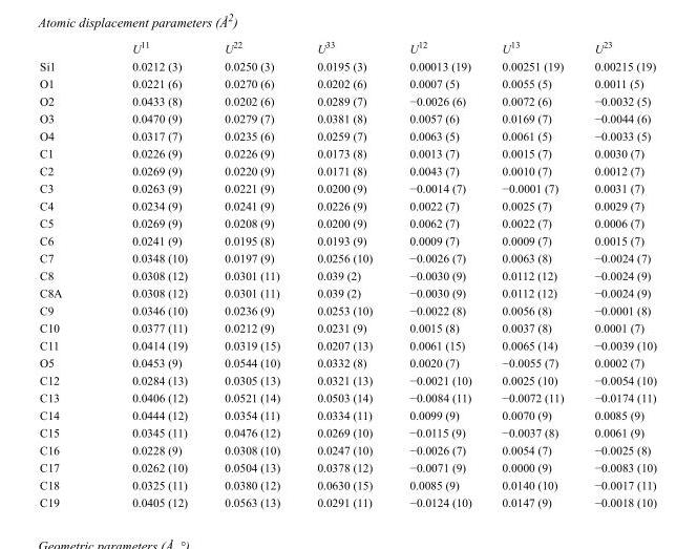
<table><thead><tr><td></td><td>U<sup>11</sup></td><td>U<sup>22</sup></td><td>U<sup>33</sup></td><td>U<sup>12</sup></td><td>U<sup>13</sup></td><td>U<sup>23</sup></td></tr></thead><tbody><tr><td>Si1</td><td>0.0212 (3)</td><td>0.0250 (3)</td><td>0.0195 (3)</td><td>0.00013 (19)</td><td>0.00251 (19)</td><td>0.00215 (19)</td></tr><tr><td>O1</td><td>0.0221 (6)</td><td>0.0270 (6)</td><td>0.0202 (6)</td><td>0.0007 (5)</td><td>0.0055 (5)</td><td>0.0011 (5)</td></tr><tr><td>O2</td><td>0.0433 (8)</td><td>0.0202 (6)</td><td>0.0289 (7)</td><td>−0.0026 (6)</td><td>0.0072 (6)</td><td>−0.0032 (5)</td></tr><tr><td>O3</td><td>0.0470 (9)</td><td>0.0279 (7)</td><td>0.0381 (8)</td><td>0.0057 (6)</td><td>0.0169 (7)</td><td>−0.0044 (6)</td></tr><tr><td>O4</td><td>0.0317 (7)</td><td>0.0235 (6)</td><td>0.0259 (7)</td><td>0.0063 (5)</td><td>0.0061 (5)</td><td>−0.0033 (5)</td></tr><tr><td>C1</td><td>0.0226 (9)</td><td>0.0226 (9)</td><td>0.0173 (8)</td><td>0.0013 (7)</td><td>0.0015 (7)</td><td>0.0030 (7)</td></tr><tr><td>C2</td><td>0.0269 (9)</td><td>0.0220 (9)</td><td>0.0171 (8)</td><td>0.0043 (7)</td><td>0.0010 (7)</td><td>0.0012 (7)</td></tr><tr><td>C3</td><td>0.0263 (9)</td><td>0.0221 (9)</td><td>0.0200 (9)</td><td>−0.0014 (7)</td><td>−0.0001 (7)</td><td>0.0031 (7)</td></tr><tr><td>C4</td><td>0.0234 (9)</td><td>0.0241 (9)</td><td>0.0226 (9)</td><td>0.0022 (7)</td><td>0.0025 (7)</td><td>0.0029 (7)</td></tr><tr><td>C5</td><td>0.0269 (9)</td><td>0.0208 (9)</td><td>0.0200 (9)</td><td>0.0062 (7)</td><td>0.0022 (7)</td><td>0.0006 (7)</td></tr><tr><td>C6</td><td>0.0241 (9)</td><td>0.0195 (8)</td><td>0.0193 (9)</td><td>0.0009 (7)</td><td>0.0009 (7)</td><td>0.0015 (7)</td></tr><tr><td>C7</td><td>0.0348 (10)</td><td>0.0197 (9)</td><td>0.0256 (10)</td><td>−0.0026 (7)</td><td>0.0063 (8)</td><td>−0.0024 (7)</td></tr><tr><td>C8</td><td>0.0308 (12)</td><td>0.0301 (11)</td><td>0.039 (2)</td><td>−0.0030 (9)</td><td>0.0112 (12)</td><td>−0.0024 (9)</td></tr><tr><td>C8A</td><td>0.0308 (12)</td><td>0.0301 (11)</td><td>0.039 (2)</td><td>−0.0030 (9)</td><td>0.0112 (12)</td><td>−0.0024 (9)</td></tr><tr><td>C9</td><td>0.0346 (10)</td><td>0.0236 (9)</td><td>0.0253 (10)</td><td>−0.0022 (8)</td><td>0.0056 (8)</td><td>−0.0001 (8)</td></tr><tr><td>C10</td><td>0.0377 (11)</td><td>0.0212 (9)</td><td>0.0231 (9)</td><td>0.0015 (8)</td><td>0.0037 (8)</td><td>0.0001 (7)</td></tr><tr><td>C11</td><td>0.0414 (19)</td><td>0.0319 (15)</td><td>0.0207 (13)</td><td>0.0061 (15)</td><td>0.0065 (14)</td><td>−0.0039 (10)</td></tr><tr><td>O5</td><td>0.0453 (9)</td><td>0.0544 (10)</td><td>0.0332 (8)</td><td>0.0020 (7)</td><td>−0.0055 (7)</td><td>0.0002 (7)</td></tr><tr><td>C12</td><td>0.0284 (13)</td><td>0.0305 (13)</td><td>0.0321 (13)</td><td>−0.0021 (10)</td><td>0.0025 (10)</td><td>−0.0054 (10)</td></tr><tr><td>C13</td><td>0.0406 (12)</td><td>0.0521 (14)</td><td>0.0503 (14)</td><td>−0.0084 (11)</td><td>−0.0072 (11)</td><td>−0.0174 (11)</td></tr><tr><td>C14</td><td>0.0444 (12)</td><td>0.0354 (11)</td><td>0.0334 (11)</td><td>0.0099 (9)</td><td>0.0070 (9)</td><td>0.0085 (9)</td></tr><tr><td>C15</td><td>0.0345 (11)</td><td>0.0476 (12)</td><td>0.0269 (10)</td><td>−0.0115 (9)</td><td>−0.0037 (8)</td><td>0.0061 (9)</td></tr><tr><td>C16</td><td>0.0228 (9)</td><td>0.0308 (10)</td><td>0.0247 (10)</td><td>−0.0026 (7)</td><td>0.0054 (7)</td><td>−0.0025 (8)</td></tr><tr><td>C17</td><td>0.0262 (10)</td><td>0.0504 (13)</td><td>0.0378 (12)</td><td>−0.0071 (9)</td><td>0.0000 (9)</td><td>−0.0083 (10)</td></tr><tr><td>C18</td><td>0.0325 (11)</td><td>0.0380 (12)</td><td>0.0630 (15)</td><td>0.0085 (9)</td><td>0.0140 (10)</td><td>−0.0017 (11)</td></tr><tr><td>C19</td><td>0.0405 (12)</td><td>0.0563 (13)</td><td>0.0291 (11)</td><td>−0.0124 (10)</td><td>0.0147 (9)</td><td>−0.0018 (10)</td></tr></tbody></table>